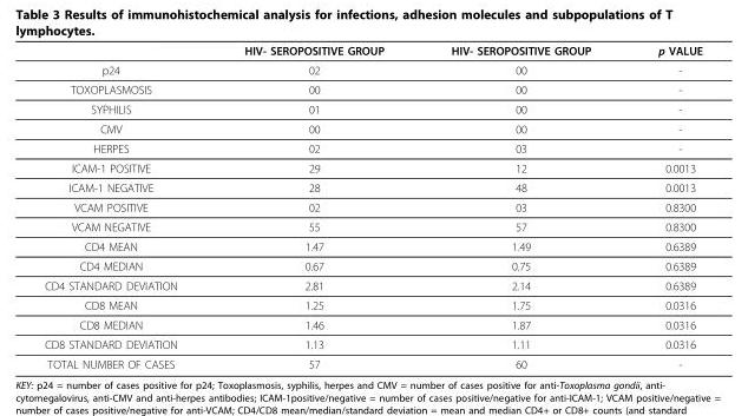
<table><thead><tr><td></td><td>HIV- SEROPOSITIVE GROUP</td><td>HIV- SEROPOSITIVE GROUP</td><td>p VALUE</td></tr></thead><tbody><tr><td>p24</td><td>02</td><td>00</td><td>-</td></tr><tr><td>TOXOPLASMOSIS</td><td>00</td><td>00</td><td>-</td></tr><tr><td>SYPHILIS</td><td>01</td><td>00</td><td>-</td></tr><tr><td>CMV</td><td>00</td><td>00</td><td>-</td></tr><tr><td>HERPES</td><td>02</td><td>03</td><td>-</td></tr><tr><td>ICAM-1 POSITIVE</td><td>29</td><td>12</td><td>0.0013</td></tr><tr><td>ICAM-1 NEGATIVE</td><td>28</td><td>48</td><td>0.0013</td></tr><tr><td>VCAM POSITIVE</td><td>02</td><td>03</td><td>0.8300</td></tr><tr><td>VCAM NEGATIVE</td><td>55</td><td>57</td><td>0.8300</td></tr><tr><td>CD4 MEAN</td><td>1.47</td><td>1.49</td><td>0.6389</td></tr><tr><td>CD4 MEDIAN</td><td>0.67</td><td>0.75</td><td>0.6389</td></tr><tr><td>CD4 STANDARD DEVIATION</td><td>2.81</td><td>2.14</td><td>0.6389</td></tr><tr><td>CD8 MEAN</td><td>1.25</td><td>1.75</td><td>0.0316</td></tr><tr><td>CD8 MEDIAN</td><td>1.46</td><td>1.87</td><td>0.0316</td></tr><tr><td>CD8 STANDARD DEVIATION</td><td>1.13</td><td>1.11</td><td>0.0316</td></tr><tr><td>TOTAL NUMBER OF CASES</td><td>57</td><td>60</td><td>-</td></tr></tbody></table>